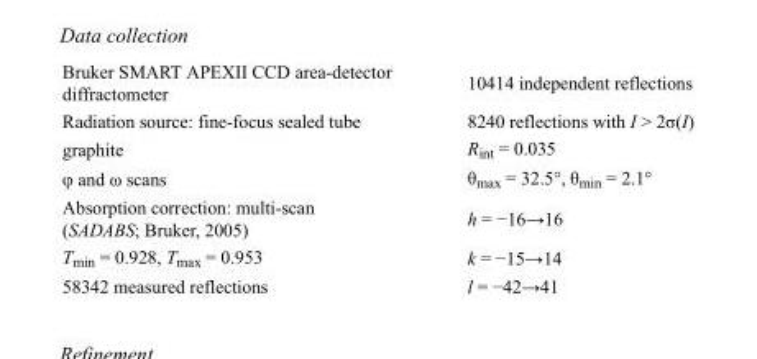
<table><tbody><tr><td>Bruker SMART APEXII CCD area-detector diffractometer</td><td>10414 independent reflections</td></tr><tr><td>Radiation source: fine-focus sealed tube</td><td>8240 reflections with I &gt; 2σ(I)</td></tr><tr><td>graphite</td><td>R<sub>int</sub> = 0.035</td></tr><tr><td>φ and ω scans</td><td>θ<sub>max</sub> = 32.5°, θ<sub>min</sub> = 2.1°</td></tr><tr><td>Absorption correction: multi-scan (SADABS; Bruker, 2005)</td><td>h = −16→16</td></tr><tr><td>T<sub>min</sub> = 0.928, T<sub>max</sub> = 0.953</td><td>k = −15→14</td></tr><tr><td>58342 measured reflections</td><td>l = −42→41</td></tr></tbody></table>